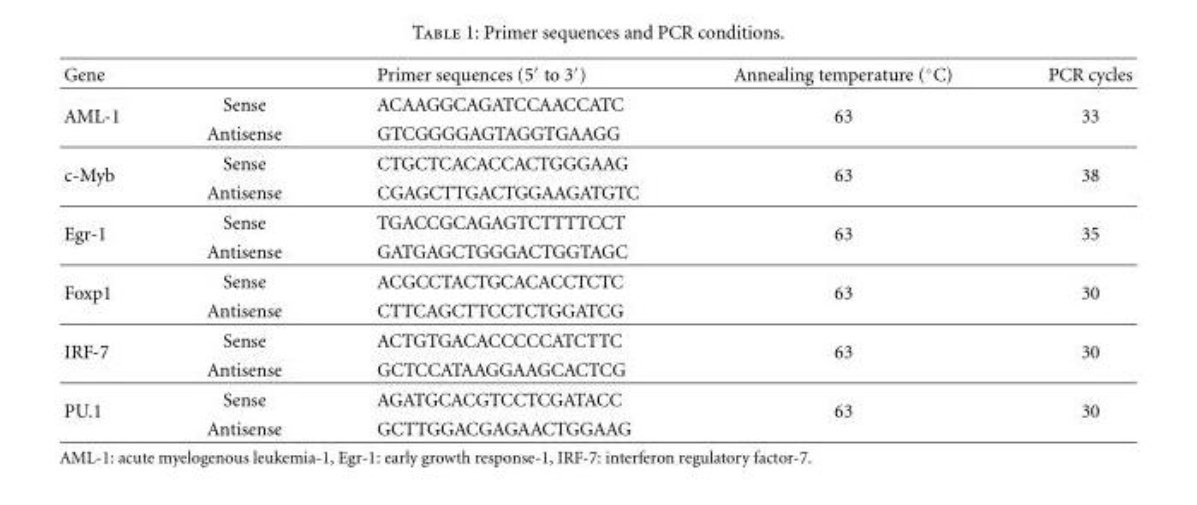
<table><thead><tr><td>Gene</td><td></td><td>Primer sequences (5′ to 3′)</td><td>Annealing temperature (◦C)</td><td>PCR cycles</td></tr></thead><tbody><tr><td rowspan="2">AML-1</td><td>Sense</td><td>ACAAGGCAGATCCAACCATC</td><td rowspan="2">63</td><td rowspan="2">33</td></tr><tr><td>Antisense</td><td>GTCGGGGAGTAGGTGAAGG</td></tr><tr><td rowspan="2">c-Myb</td><td>Sense</td><td>CTGCTCACACCACTGGGAAG</td><td rowspan="2">63</td><td rowspan="2">38</td></tr><tr><td>Antisense</td><td>CGAGCTTGACTGGAAGATGTC</td></tr><tr><td rowspan="2">Egr-1</td><td>Sense</td><td>TGACCGCAGAGTCTTTTCCT</td><td rowspan="2">63</td><td rowspan="2">35</td></tr><tr><td>Antisense</td><td>GATGAGCTGGGACTGGTAGC</td></tr><tr><td rowspan="2">Foxp1</td><td>Sense</td><td>ACGCCTACTGCACACCTCTC</td><td rowspan="2">63</td><td rowspan="2">30</td></tr><tr><td>Antisense</td><td>CTTCAGCTTCCTCTGGATCG</td></tr><tr><td rowspan="2">IRF-7</td><td>Sense</td><td>ACTGTGACACCCCCATCTTC</td><td rowspan="2">63</td><td rowspan="2">30</td></tr><tr><td>Antisense</td><td>GCTCCATAAGGAAGCACTCG</td></tr><tr><td rowspan="2">PU.1</td><td>Sense</td><td>AGATGCACGTCCTCGATACC</td><td rowspan="2">63</td><td rowspan="2">30</td></tr><tr><td>Antisense</td><td>GCTTGGACGAGAACTGGAAG</td></tr></tbody></table>